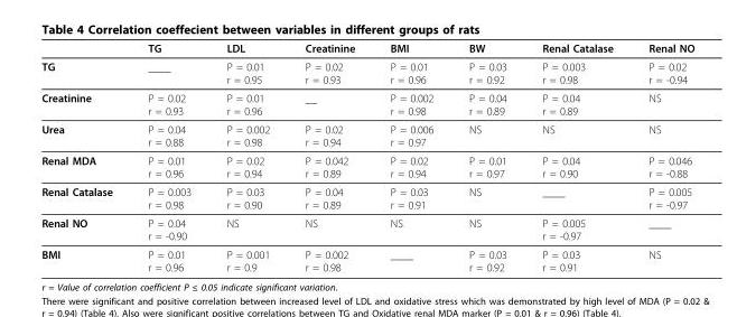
<table><thead><tr><td></td><td>TG</td><td>LDL</td><td>Creatinine</td><td>BMI</td><td>BW</td><td>Renal Catalase</td><td>Renal NO</td></tr></thead><tbody><tr><td>TG</td><td>____</td><td>P = 0.01 r = 0.95</td><td>P = 0.02 r = 0.93</td><td>P = 0.01 r = 0.96</td><td>P = 0.03 r = 0.92</td><td>P = 0.003 r = 0.98</td><td>P = 0.02 r = -0.94</td></tr><tr><td>Creatinine</td><td>P = 0.02 r = 0.93</td><td>P = 0.01 r = 0.96</td><td>__</td><td>P = 0.002 r = 0.98</td><td>P = 0.04 r = 0.89</td><td>P = 0.04 r = 0.89</td><td>NS</td></tr><tr><td>Urea</td><td>P = 0.04 r = 0.88</td><td>P = 0.002 r = 0.98</td><td>P = 0.02 r = 0.94</td><td>P = 0.006 r = 0.97</td><td>NS</td><td>NS</td><td>NS</td></tr><tr><td>Renal MDA</td><td>P = 0.01 r = 0.96</td><td>P = 0.02 r = 0.94</td><td>P = 0.042 r = 0.89</td><td>P = 0.02 r = 0.94</td><td>P = 0.01 r = 0.97</td><td>P = 0.04 r = 0.90</td><td>P = 0.046 r = -0.88</td></tr><tr><td>Renal Catalase</td><td>P = 0.003 r = 0.98</td><td>P = 0.03 r = 0.90</td><td>P = 0.04 r = 0.89</td><td>P = 0.03 r = 0.91</td><td>NS</td><td>____</td><td>P = 0.005 r = -0.97</td></tr><tr><td>Renal NO</td><td>P = 0.04 r = -0.90</td><td>NS</td><td>NS</td><td>NS</td><td>NS</td><td>P = 0.005 r = -0.97</td><td>____</td></tr><tr><td>BMI</td><td>P = 0.01 r = 0.96</td><td>P = 0.001 r = 0.9</td><td>P = 0.002 r = 0.98</td><td>____</td><td>P = 0.03 r = 0.92</td><td>P = 0.03 r = 0.91</td><td>NS</td></tr></tbody></table>